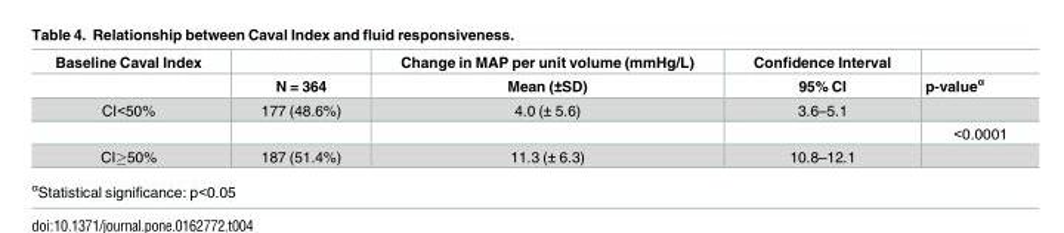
<table><thead><tr><td rowspan="2">Baseline Caval Index</td><td rowspan="2">N = 364</td><td rowspan="2">Change in MAP per unit volume (mmHg/L) Mean (±SD)</td><td rowspan="2">Confidence Interval 95% CI</td><td rowspan="2">p-value<sup>α</sup></td></tr><tr></tr></thead><tbody><tr><td rowspan="2">CI&lt;50%</td><td>177 (48.6%)</td><td>4.0 (± 5.6)</td><td>3.6–5.1</td><td></td></tr><tr><td></td><td></td><td></td><td>&lt;0.0001</td></tr><tr><td>CI≥50%</td><td>187 (51.4%)</td><td>11.3 (± 6.3)</td><td>10.8–12.1</td><td></td></tr></tbody></table>